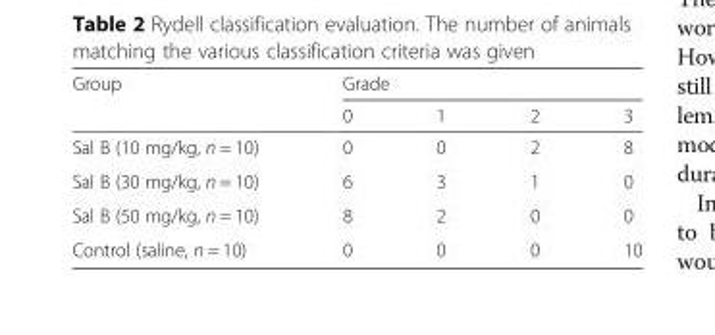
<table><thead><tr><td rowspan="2">Group</td><td colspan="4">Grade</td></tr><tr><td>0</td><td>1</td><td>2</td><td>3</td></tr></thead><tbody><tr><td>Sal B (10 mg/kg, n = 10)</td><td>0</td><td>0</td><td>2</td><td>8</td></tr><tr><td>Sal B (30 mg/kg, n = 10)</td><td>6</td><td>3</td><td>1</td><td>0</td></tr><tr><td>Sal B (50 mg/kg, n = 10)</td><td>8</td><td>2</td><td>0</td><td>0</td></tr><tr><td>Control (saline, n = 10)</td><td>0</td><td>0</td><td>0</td><td>10</td></tr></tbody></table>